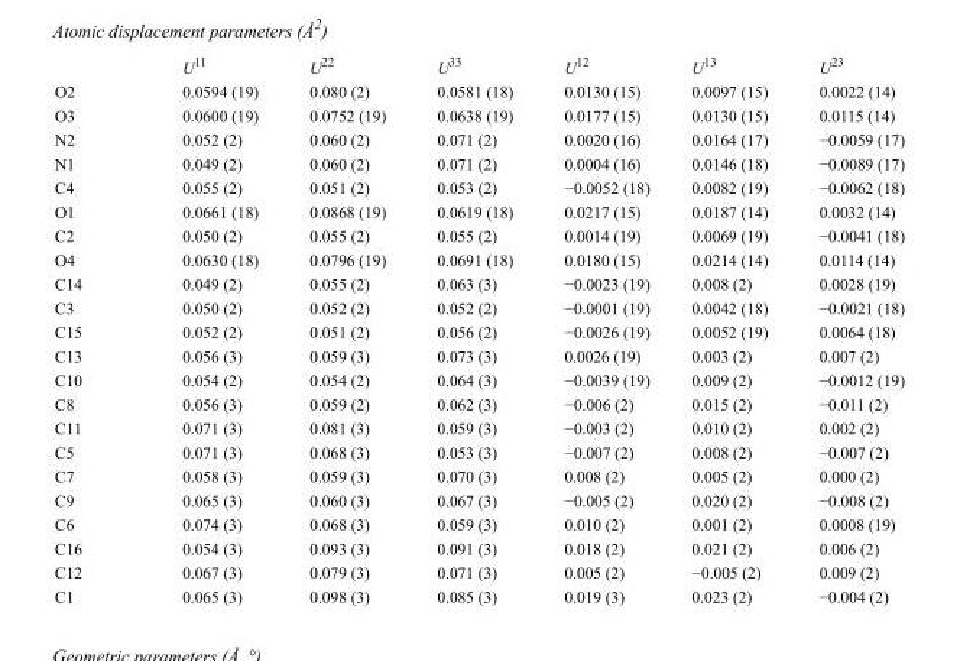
<table><thead><tr><td></td><td>U<sup>11</sup></td><td>U<sup>22</sup></td><td>U<sup>33</sup></td><td>U<sup>12</sup></td><td>U<sup>13</sup></td><td>U<sup>23</sup></td></tr></thead><tbody><tr><td>O2</td><td>0.0594 (19)</td><td>0.080 (2)</td><td>0.0581 (18)</td><td>0.0130 (15)</td><td>0.0097 (15)</td><td>0.0022 (14)</td></tr><tr><td>O3</td><td>0.0600 (19)</td><td>0.0752 (19)</td><td>0.0638 (19)</td><td>0.0177 (15)</td><td>0.0130 (15)</td><td>0.0115 (14)</td></tr><tr><td>N2</td><td>0.052 (2)</td><td>0.060 (2)</td><td>0.071 (2)</td><td>0.0020 (16)</td><td>0.0164 (17)</td><td>−0.0059 (17)</td></tr><tr><td>N1</td><td>0.049 (2)</td><td>0.060 (2)</td><td>0.071 (2)</td><td>0.0004 (16)</td><td>0.0146 (18)</td><td>−0.0089 (17)</td></tr><tr><td>C4</td><td>0.055 (2)</td><td>0.051 (2)</td><td>0.053 (2)</td><td>−0.0052 (18)</td><td>0.0082 (19)</td><td>−0.0062 (18)</td></tr><tr><td>O1</td><td>0.0661 (18)</td><td>0.0868 (19)</td><td>0.0619 (18)</td><td>0.0217 (15)</td><td>0.0187 (14)</td><td>0.0032 (14)</td></tr><tr><td>C2</td><td>0.050 (2)</td><td>0.055 (2)</td><td>0.055 (2)</td><td>0.0014 (19)</td><td>0.0069 (19)</td><td>−0.0041 (18)</td></tr><tr><td>O4</td><td>0.0630 (18)</td><td>0.0796 (19)</td><td>0.0691 (18)</td><td>0.0180 (15)</td><td>0.0214 (14)</td><td>0.0114 (14)</td></tr><tr><td>C14</td><td>0.049 (2)</td><td>0.055 (2)</td><td>0.063 (3)</td><td>−0.0023 (19)</td><td>0.008 (2)</td><td>0.0028 (19)</td></tr><tr><td>C3</td><td>0.050 (2)</td><td>0.052 (2)</td><td>0.052 (2)</td><td>−0.0001 (19)</td><td>0.0042 (18)</td><td>−0.0021 (18)</td></tr><tr><td>C15</td><td>0.052 (2)</td><td>0.051 (2)</td><td>0.056 (2)</td><td>−0.0026 (19)</td><td>0.0052 (19)</td><td>0.0064 (18)</td></tr><tr><td>C13</td><td>0.056 (3)</td><td>0.059 (3)</td><td>0.073 (3)</td><td>0.0026 (19)</td><td>0.003 (2)</td><td>0.007 (2)</td></tr><tr><td>C10</td><td>0.054 (2)</td><td>0.054 (2)</td><td>0.064 (3)</td><td>−0.0039 (19)</td><td>0.009 (2)</td><td>−0.0012 (19)</td></tr><tr><td>C8</td><td>0.056 (3)</td><td>0.059 (2)</td><td>0.062 (3)</td><td>−0.006 (2)</td><td>0.015 (2)</td><td>−0.011 (2)</td></tr><tr><td>C11</td><td>0.071 (3)</td><td>0.081 (3)</td><td>0.059 (3)</td><td>−0.003 (2)</td><td>0.010 (2)</td><td>0.002 (2)</td></tr><tr><td>C5</td><td>0.071 (3)</td><td>0.068 (3)</td><td>0.053 (3)</td><td>−0.007 (2)</td><td>0.008 (2)</td><td>−0.007 (2)</td></tr><tr><td>C7</td><td>0.058 (3)</td><td>0.059 (3)</td><td>0.070 (3)</td><td>0.008 (2)</td><td>0.005 (2)</td><td>0.000 (2)</td></tr><tr><td>C9</td><td>0.065 (3)</td><td>0.060 (3)</td><td>0.067 (3)</td><td>−0.005 (2)</td><td>0.020 (2)</td><td>−0.008 (2)</td></tr><tr><td>C6</td><td>0.074 (3)</td><td>0.068 (3)</td><td>0.059 (3)</td><td>0.010 (2)</td><td>0.001 (2)</td><td>0.0008 (19)</td></tr><tr><td>C16</td><td>0.054 (3)</td><td>0.093 (3)</td><td>0.091 (3)</td><td>0.018 (2)</td><td>0.021 (2)</td><td>0.006 (2)</td></tr><tr><td>C12</td><td>0.067 (3)</td><td>0.079 (3)</td><td>0.071 (3)</td><td>0.005 (2)</td><td>−0.005 (2)</td><td>0.009 (2)</td></tr><tr><td>C1</td><td>0.065 (3)</td><td>0.098 (3)</td><td>0.085 (3)</td><td>0.019 (3)</td><td>0.023 (2)</td><td>−0.004 (2)</td></tr></tbody></table>